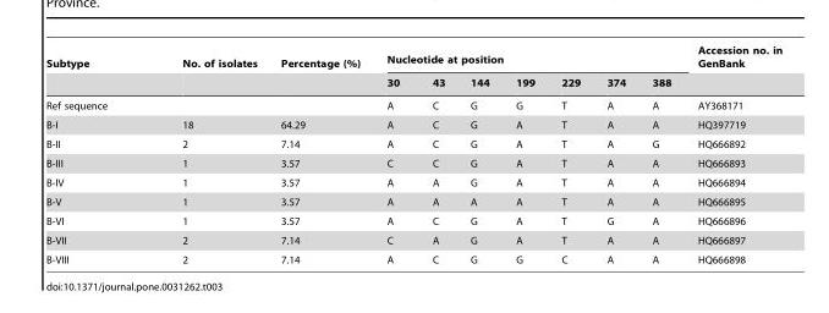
<table><thead><tr><td rowspan="2">Subtype</td><td rowspan="2">No. of isolates</td><td rowspan="2">Percentage (%)</td><td colspan="7">Nucleotide at position</td><td rowspan="2">Accession no. in GenBank</td></tr><tr><td>30</td><td>43</td><td>144</td><td>199</td><td>229</td><td>374</td><td>388</td></tr></thead><tbody><tr><td>Ref sequence</td><td></td><td></td><td>A</td><td>C</td><td>G</td><td>G</td><td>T</td><td>A</td><td>A</td><td>AY368171</td></tr><tr><td>B-I</td><td>18</td><td>64.29</td><td>A</td><td>C</td><td>G</td><td>A</td><td>T</td><td>A</td><td>A</td><td>HQ397719</td></tr><tr><td>B-II</td><td>2</td><td>7.14</td><td>A</td><td>C</td><td>G</td><td>A</td><td>T</td><td>A</td><td>G</td><td>HQ666892</td></tr><tr><td>B-III</td><td>1</td><td>3.57</td><td>C</td><td>C</td><td>G</td><td>A</td><td>T</td><td>A</td><td>A</td><td>HQ666893</td></tr><tr><td>B-IV</td><td>1</td><td>3.57</td><td>A</td><td>A</td><td>G</td><td>A</td><td>T</td><td>A</td><td>A</td><td>HQ666894</td></tr><tr><td>B-V</td><td>1</td><td>3.57</td><td>A</td><td>A</td><td>A</td><td>A</td><td>T</td><td>A</td><td>A</td><td>HQ666895</td></tr><tr><td>B-VI</td><td>1</td><td>3.57</td><td>A</td><td>C</td><td>G</td><td>A</td><td>T</td><td>G</td><td>A</td><td>HQ666896</td></tr><tr><td>B-VII</td><td>2</td><td>7.14</td><td>C</td><td>A</td><td>G</td><td>A</td><td>T</td><td>A</td><td>A</td><td>HQ666897</td></tr><tr><td>B-VIII</td><td>2</td><td>7.14</td><td>A</td><td>C</td><td>G</td><td>G</td><td>C</td><td>A</td><td>A</td><td>HQ666898</td></tr></tbody></table>